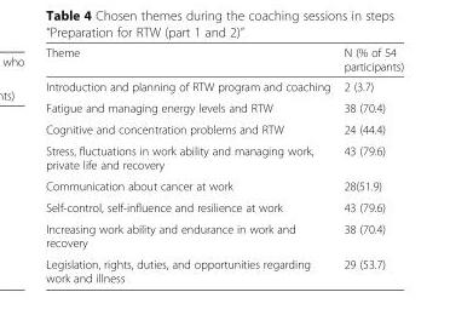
<table><thead><tr><td>Theme</td><td>N (% of 54 participants)</td></tr></thead><tbody><tr><td>Introduction and planning of RTW program and coaching</td><td>2 (3.7)</td></tr><tr><td>Fatigue and managing energy levels and RTW</td><td>38 (70.4)</td></tr><tr><td>Cognitive and concentration problems and RTW</td><td>24 (44.4)</td></tr><tr><td>Stress, fluctuations in work ability and managing work, private life and recovery</td><td>43 (79.6)</td></tr><tr><td>Communication about cancer at work</td><td>28(51.9)</td></tr><tr><td>Self-control, self-influence and resilience at work</td><td>43 (79.6)</td></tr><tr><td>Increasing work ability and endurance in work and recovery</td><td>38 (70.4)</td></tr><tr><td>Legislation, rights, duties, and opportunities regarding work and illness</td><td>29 (53.7)</td></tr></tbody></table>